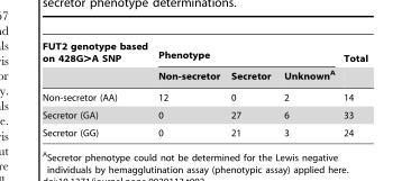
<table><thead><tr><td rowspan="2">FUT2 genotype based on 428G&gt;A SNP</td><td colspan="3">Phenotype</td><td rowspan="2">Total</td></tr><tr><td>Non-secretor</td><td>Secretor</td><td>Unknown<sup>A</sup></td></tr></thead><tbody><tr><td>Non-secretor (AA)</td><td>12</td><td>0</td><td>2</td><td>14</td></tr><tr><td>Secretor (GA)</td><td>0</td><td>27</td><td>6</td><td>33</td></tr><tr><td>Secretor (GG)</td><td>0</td><td>21</td><td>3</td><td>24</td></tr></tbody></table>